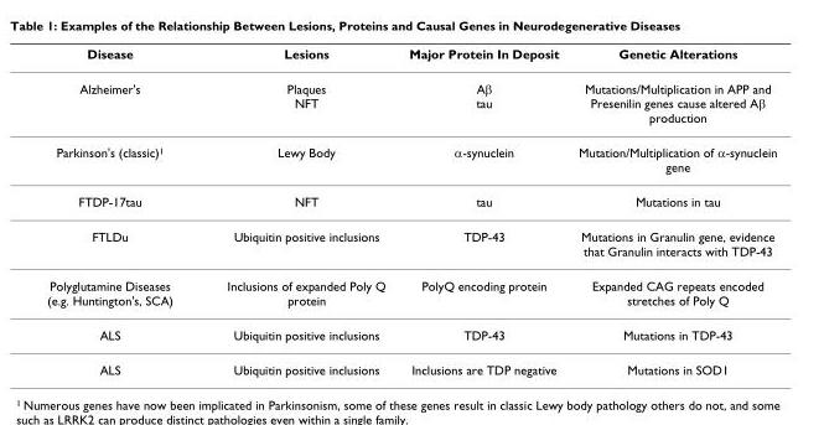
<table><thead><tr><td>Disease</td><td>Lesions</td><td>Major Protein In Deposit</td><td>Genetic Alterations</td></tr></thead><tbody><tr><td>Alzheimer&#x27;s</td><td>Plaques NFT</td><td>Aβ tau</td><td>Mutations/Multiplication in APP and Presenilin genes cause altered Aβ production</td></tr><tr><td>Parkinson&#x27;s (classic)<sup>1</sup></td><td>Lewy Body</td><td>α-synuclein</td><td>Mutation/Multiplication of α-synuclein gene</td></tr><tr><td>FTDP-17tau</td><td>NFT</td><td>tau</td><td>Mutations in tau</td></tr><tr><td>FTLDu</td><td>Ubiquitin positive inclusions</td><td>TDP-43</td><td>Mutations in Granulin gene, evidence that Granulin interacts with TDP-43</td></tr><tr><td>Polyglutamine Diseases (e.g. Huntington&#x27;s, SCA)</td><td>Inclusions of expanded Poly Q protein</td><td>PolyQ encoding protein</td><td>Expanded CAG repeats encoded stretches of Poly Q</td></tr><tr><td>ALS</td><td>Ubiquitin positive inclusions</td><td>TDP-43</td><td>Mutations in TDP-43</td></tr><tr><td>ALS</td><td>Ubiquitin positive inclusions</td><td>Inclusions are TDP negative</td><td>Mutations in SOD1</td></tr></tbody></table>